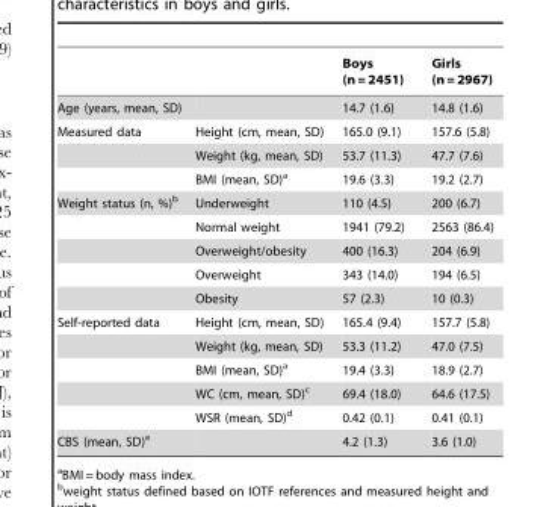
<table><thead><tr><td></td><td></td><td>Boys (n = 2451)</td><td>Girls (n = 2967)</td></tr></thead><tbody><tr><td>Age (years, mean, SD)</td><td></td><td>14.7 (1.6)</td><td>14.8 (1.6)</td></tr><tr><td rowspan="3">Measured data</td><td>Height (cm, mean, SD)</td><td>165.0 (9.1)</td><td>157.6 (5.8)</td></tr><tr><td>Weight (kg, mean, SD)</td><td>53.7 (11.3)</td><td>47.7 (7.6)</td></tr><tr><td>BMI (mean, SD)<sup>a</sup></td><td>19.6 (3.3)</td><td>19.2 (2.7)</td></tr><tr><td rowspan="5">Weight status (n, %)<sup>b</sup></td><td>Underweight</td><td>110 (4.5)</td><td>200 (6.7)</td></tr><tr><td>Normal weight</td><td>1941 (79.2)</td><td>2563 (86.4)</td></tr><tr><td>Overweight/obesity</td><td>400 (16.3)</td><td>204 (6.9)</td></tr><tr><td>Overweight</td><td>343 (14.0)</td><td>194 (6.5)</td></tr><tr><td>Obesity</td><td>57 (2.3)</td><td>10 (0.3)</td></tr><tr><td rowspan="5">Self-reported data</td><td>Height (cm, mean, SD)</td><td>165.4 (9.4)</td><td>157.7 (5.8)</td></tr><tr><td>Weight (kg, mean, SD)</td><td>53.3 (11.2)</td><td>47.0 (7.5)</td></tr><tr><td>BMI (mean, SD)<sup>a</sup></td><td>19.4 (3.3)</td><td>18.9 (2.7)</td></tr><tr><td>WC (cm, mean, SD)<sup>c</sup></td><td>69.4 (18.0)</td><td>64.6 (17.5)</td></tr><tr><td>WSR (mean, SD)<sup>d</sup></td><td>0.42 (0.1)</td><td>0.41 (0.1)</td></tr><tr><td>CBS (mean, SD)<sup>e</sup></td><td></td><td>4.2 (1.3)</td><td>3.6 (1.0)</td></tr></tbody></table>